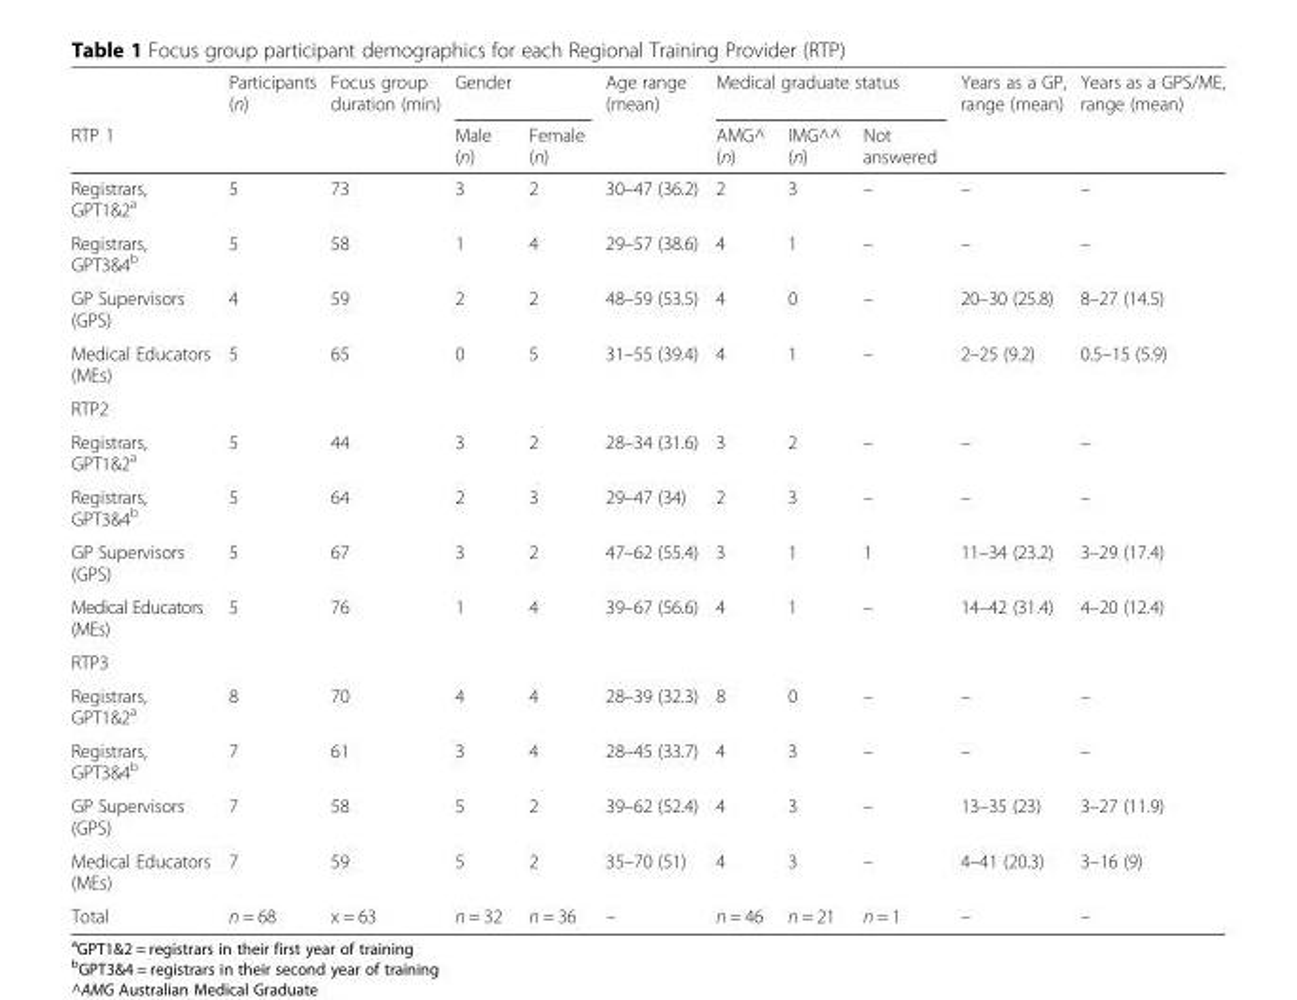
<table><thead><tr><td rowspan="2">RTP 1</td><td rowspan="2">Participants (n)</td><td rowspan="2">Focus group duration (min)</td><td colspan="2">Gender</td><td rowspan="2">Age range (mean)</td><td colspan="3">Medical graduate status</td><td rowspan="2">Years as a GP, range (mean)</td><td rowspan="2">Years as a GPS/ME, range (mean)</td></tr><tr><td>Male (n)</td><td>Female (n)</td><td>AMG^ (n)</td><td>IMG^^ (n)</td><td>Not answered</td></tr></thead><tbody><tr><td>Registrars, GPT1&amp;2<sup>a</sup></td><td>5</td><td>73</td><td>3</td><td>2</td><td>30–47 (36.2)</td><td>2</td><td>3</td><td>–</td><td>–</td><td>–</td></tr><tr><td>Registrars, GPT3&amp;4<sup>b</sup></td><td>5</td><td>58</td><td>1</td><td>4</td><td>29–57 (38.6)</td><td>4</td><td>1</td><td>–</td><td>–</td><td>–</td></tr><tr><td>GP Supervisors (GPS)</td><td>4</td><td>59</td><td>2</td><td>2</td><td>48–59 (53.5)</td><td>4</td><td>0</td><td>–</td><td>20–30 (25.8)</td><td>8–27 (14.5)</td></tr><tr><td>Medical Educators (MEs)</td><td>5</td><td>65</td><td>0</td><td>5</td><td>31–55 (39.4)</td><td>4</td><td>1</td><td>–</td><td>2–25 (9.2)</td><td>0.5–15 (5.9)</td></tr><tr><td colspan="11">RTP2</td></tr><tr><td>Registrars, GPT1&amp;2<sup>a</sup></td><td>5</td><td>44</td><td>3</td><td>2</td><td>28–34 (31.6)</td><td>3</td><td>2</td><td>–</td><td>–</td><td>–</td></tr><tr><td>Registrars, GPT3&amp;4<sup>b</sup></td><td>5</td><td>64</td><td>2</td><td>3</td><td>29–47 (34)</td><td>2</td><td>3</td><td>–</td><td>–</td><td>–</td></tr><tr><td>GP Supervisors (GPS)</td><td>5</td><td>67</td><td>3</td><td>2</td><td>47–62 (55.4)</td><td>3</td><td>1</td><td>1</td><td>11–34 (23.2)</td><td>3–29 (17.4)</td></tr><tr><td>Medical Educators (MEs)</td><td>5</td><td>76</td><td>1</td><td>4</td><td>39–67 (56.6)</td><td>4</td><td>1</td><td>–</td><td>14–42 (31.4)</td><td>4–20 (12.4)</td></tr><tr><td colspan="11">RTP3</td></tr><tr><td>Registrars, GPT1&amp;2<sup>a</sup></td><td>8</td><td>70</td><td>4</td><td>4</td><td>28–39 (32.3)</td><td>8</td><td>0</td><td>–</td><td>–</td><td>–</td></tr><tr><td>Registrars, GPT3&amp;4<sup>b</sup></td><td>7</td><td>61</td><td>3</td><td>4</td><td>28–45 (33.7)</td><td>4</td><td>3</td><td>–</td><td>–</td><td>–</td></tr><tr><td>GP Supervisors (GPS)</td><td>7</td><td>58</td><td>5</td><td>2</td><td>39–62 (52.4)</td><td>4</td><td>3</td><td>–</td><td>13–35 (23)</td><td>3–27 (11.9)</td></tr><tr><td>Medical Educators (MEs)</td><td>7</td><td>59</td><td>5</td><td>2</td><td>35–70 (51)</td><td>4</td><td>3</td><td>–</td><td>4–41 (20.3)</td><td>3–16 (9)</td></tr><tr><td>Total</td><td>n = 68</td><td>x = 63</td><td>n = 32</td><td>n = 36</td><td>–</td><td>n = 46</td><td>n = 21</td><td>n = 1</td><td>–</td><td>–</td></tr></tbody></table>